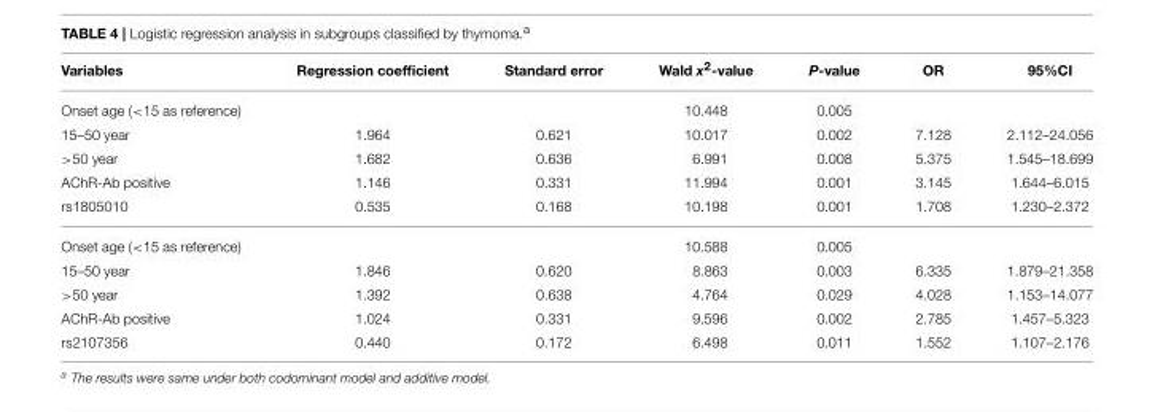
<table><thead><tr><td>Variables</td><td>Regression coefficient</td><td>Standard error</td><td>Wald x<sup>2</sup>-value</td><td>P-value</td><td>OR</td><td>95%CI</td></tr></thead><tbody><tr><td>Onset age (&lt;15 as reference)</td><td></td><td></td><td>10.448</td><td>0.005</td><td></td><td></td></tr><tr><td>15–50 year</td><td>1.964</td><td>0.621</td><td>10.017</td><td>0.002</td><td>7.128</td><td>2.112–24.056</td></tr><tr><td>&gt;50 year</td><td>1.682</td><td>0.636</td><td>6.991</td><td>0.008</td><td>5.375</td><td>1.545–18.699</td></tr><tr><td>AChR-Ab positive</td><td>1.146</td><td>0.331</td><td>11.994</td><td>0.001</td><td>3.145</td><td>1.644–6.015</td></tr><tr><td>rs1805010</td><td>0.535</td><td>0.168</td><td>10.198</td><td>0.001</td><td>1.708</td><td>1.230–2.372</td></tr><tr><td>Onset age (&lt;15 as reference)</td><td></td><td></td><td>10.588</td><td>0.005</td><td></td><td></td></tr><tr><td>15–50 year</td><td>1.846</td><td>0.620</td><td>8.863</td><td>0.003</td><td>6.335</td><td>1.879–21.358</td></tr><tr><td>&gt;50 year</td><td>1.392</td><td>0.638</td><td>4.764</td><td>0.029</td><td>4.028</td><td>1.153–14.077</td></tr><tr><td>AChR-Ab positive</td><td>1.024</td><td>0.331</td><td>9.596</td><td>0.002</td><td>2.785</td><td>1.457–5.323</td></tr><tr><td>rs2107356</td><td>0.440</td><td>0.172</td><td>6.498</td><td>0.011</td><td>1.552</td><td>1.107–2.176</td></tr></tbody></table>